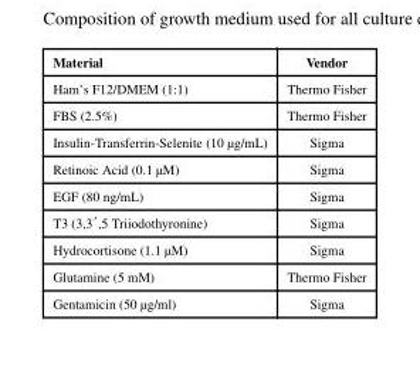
<table><thead><tr><td>Material</td><td>Vendor</td></tr></thead><tbody><tr><td>Ham’s F12/DMEM (1:1)</td><td>Thermo Fisher</td></tr><tr><td>FBS (2.5%)</td><td>Thermo Fisher</td></tr><tr><td>Insulin-Transferrin-Selenite (10 µg/mL)</td><td>Sigma</td></tr><tr><td>Retinoic Acid (0.1 µM)</td><td>Sigma</td></tr><tr><td>EGF (80 ng/mL)</td><td>Sigma</td></tr><tr><td>T3 (3,3′,5 Triiodothyronine)</td><td>Sigma</td></tr><tr><td>Hydrocortisone (1.1 µM)</td><td>Sigma</td></tr><tr><td>Glutamine (5 mM)</td><td>Thermo Fisher</td></tr><tr><td>Gentamicin (50 µg/ml)</td><td>Sigma</td></tr></tbody></table>